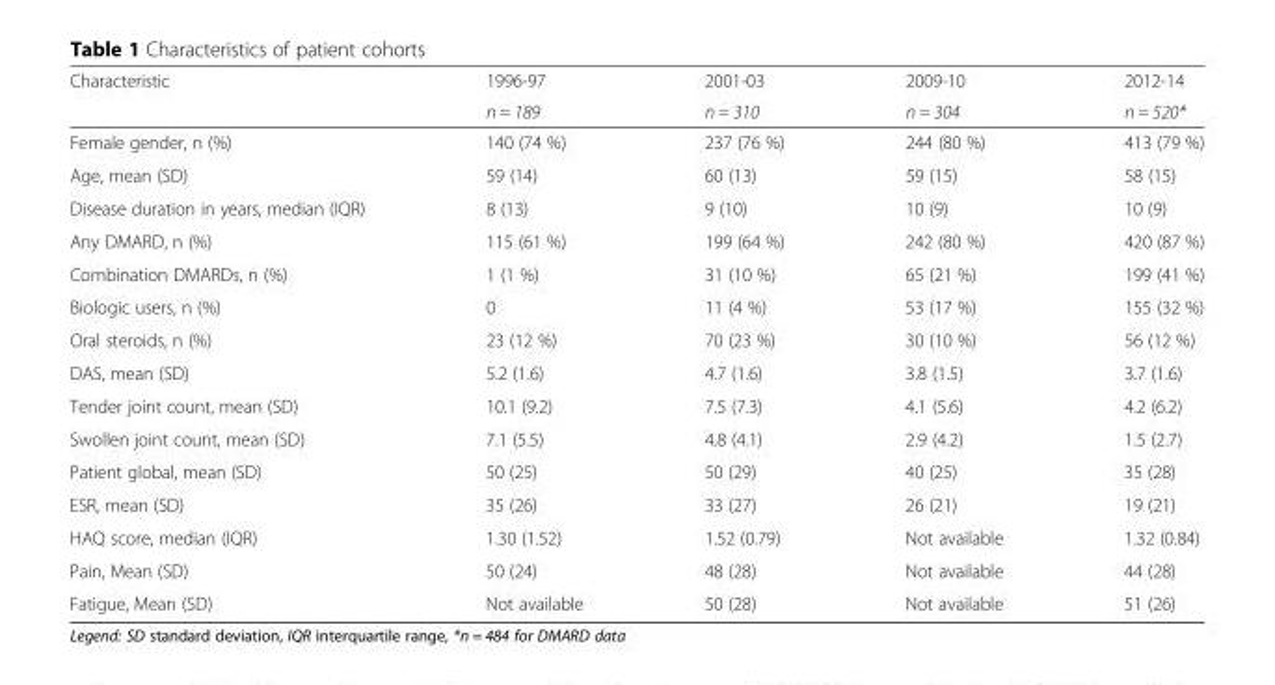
<table><thead><tr><td rowspan="2">Characteristic</td><td rowspan="2">1996-97 n = 189</td><td rowspan="2">2001-03 n = 310</td><td rowspan="2">2009-10 n = 304</td><td rowspan="2">2012-14 n = 520*</td></tr><tr></tr></thead><tbody><tr><td>Female gender, n (%)</td><td>140 (74 %)</td><td>237 (76 %)</td><td>244 (80 %)</td><td>413 (79 %)</td></tr><tr><td>Age, mean (SD)</td><td>59 (14)</td><td>60 (13)</td><td>59 (15)</td><td>58 (15)</td></tr><tr><td>Disease duration in years, median (IQR)</td><td>8 (13)</td><td>9 (10)</td><td>10 (9)</td><td>10 (9)</td></tr><tr><td>Any DMARD, n (%)</td><td>115 (61 %)</td><td>199 (64 %)</td><td>242 (80 %)</td><td>420 (87 %)</td></tr><tr><td>Combination DMARDs, n (%)</td><td>1 (1 %)</td><td>31 (10 %)</td><td>65 (21 %)</td><td>199 (41 %)</td></tr><tr><td>Biologic users, n (%)</td><td>0</td><td>11 (4 %)</td><td>53 (17 %)</td><td>155 (32 %)</td></tr><tr><td>Oral steroids, n (%)</td><td>23 (12 %)</td><td>70 (23 %)</td><td>30 (10 %)</td><td>56 (12 %)</td></tr><tr><td>DAS, mean (SD)</td><td>5.2 (1.6)</td><td>4.7 (1.6)</td><td>3.8 (1.5)</td><td>3.7 (1.6)</td></tr><tr><td>Tender joint count, mean (SD)</td><td>10.1 (9.2)</td><td>7.5 (7.3)</td><td>4.1 (5.6)</td><td>4.2 (6.2)</td></tr><tr><td>Swollen joint count, mean (SD)</td><td>7.1 (5.5)</td><td>4.8 (4.1)</td><td>2.9 (4.2)</td><td>1.5 (2.7)</td></tr><tr><td>Patient global, mean (SD)</td><td>50 (25)</td><td>50 (29)</td><td>40 (25)</td><td>35 (28)</td></tr><tr><td>ESR, mean (SD)</td><td>35 (26)</td><td>33 (27)</td><td>26 (21)</td><td>19 (21)</td></tr><tr><td>HAQ score, median (IQR)</td><td>1.30 (1.52)</td><td>1.52 (0.79)</td><td>Not available</td><td>1.32 (0.84)</td></tr><tr><td>Pain, Mean (SD)</td><td>50 (24)</td><td>48 (28)</td><td>Not available</td><td>44 (28)</td></tr><tr><td>Fatigue, Mean (SD)</td><td>Not available</td><td>50 (28)</td><td>Not available</td><td>51 (26)</td></tr></tbody></table>